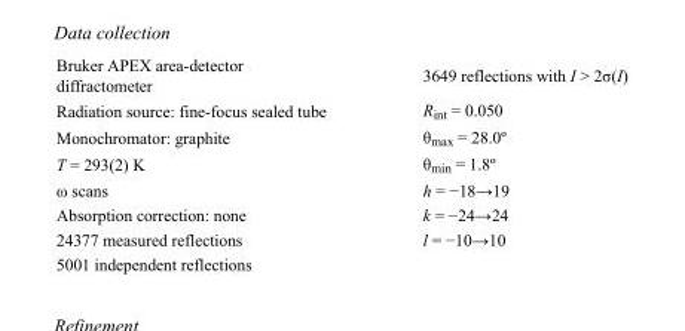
<table><tbody><tr><td>Bruker APEX area-detector diffractometer</td><td>3649 reflections with I &gt; 2σ(I)</td></tr><tr><td>Radiation source: fine-focus sealed tube</td><td>R<sub>int</sub> = 0.050</td></tr><tr><td>Monochromator: graphite</td><td>θ<sub>max</sub> = 28.0º</td></tr><tr><td>T = 293(2) K</td><td>θ<sub>min</sub> = 1.8º</td></tr><tr><td>ω scans</td><td>h = −18→19</td></tr><tr><td>Absorption correction: none</td><td>k = −24→24</td></tr><tr><td>24377 measured reflections</td><td>l = −10→10</td></tr><tr><td>5001 independent reflections</td><td></td></tr></tbody></table>